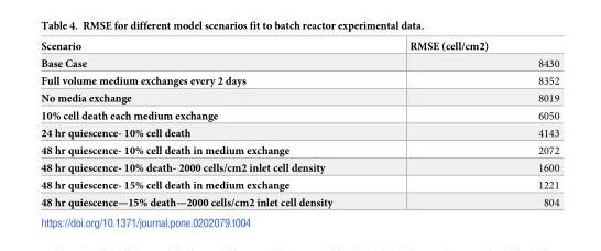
<table><thead><tr><td>Scenario</td><td>RMSE (cell/cm2)</td></tr></thead><tbody><tr><td>Base Case</td><td>8430</td></tr><tr><td>Full volume medium exchanges every 2 days</td><td>8352</td></tr><tr><td>No media exchange</td><td>8019</td></tr><tr><td>10% cell death each medium exchange</td><td>6050</td></tr><tr><td>24 hr quiescence- 10% cell death</td><td>4143</td></tr><tr><td>48 hr quiescence- 10% cell death in medium exchange</td><td>2072</td></tr><tr><td>48 hr quiescence- 10% death- 2000 cells/cm2 inlet cell density</td><td>1600</td></tr><tr><td>48 hr quiescence- 15% cell death in medium exchange</td><td>1221</td></tr><tr><td>48 hr quiescence—15% death—2000 cells/cm2 inlet cell density</td><td>804</td></tr></tbody></table>